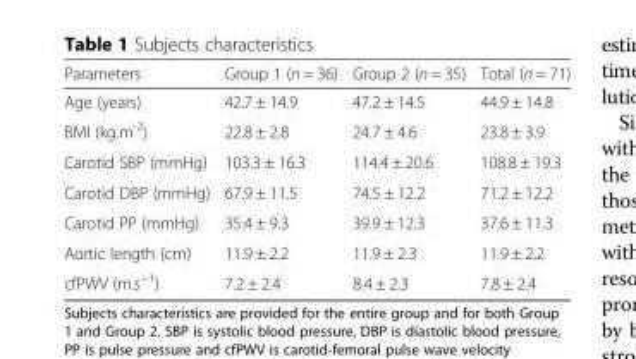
<table><thead><tr><td>Parameters</td><td>Group 1 (n = 36)</td><td>Group 2 (n = 35)</td><td>Total (n = 71)</td></tr></thead><tbody><tr><td>Age (years)</td><td>42.7 ± 14.9</td><td>47.2 ± 14.5</td><td>44.9 ± 14.8</td></tr><tr><td>BMI (kg.m<sup>-2</sup>)</td><td>22.8 ± 2.8</td><td>24.7 ± 4.6</td><td>23.8 ± 3.9</td></tr><tr><td>Carotid SBP (mmHg)</td><td>103.3 ± 16.3</td><td>114.4 ± 20.6</td><td>108.8 ± 19.3</td></tr><tr><td>Carotid DBP (mmHg)</td><td>67.9 ± 11.5</td><td>74.5 ± 12.2</td><td>71.2 ± 12.2</td></tr><tr><td>Carotid PP (mmHg)</td><td>35.4 ± 9.3</td><td>39.9 ± 12.3</td><td>37.6 ± 11.3</td></tr><tr><td>Aortic length (cm)</td><td>11.9 ± 2.2</td><td>11.9 ± 2.3</td><td>11.9 ± 2.2</td></tr><tr><td>cfPWV (m.s<sup>−1</sup>)</td><td>7.2 ± 2.4</td><td>8.4 ± 2.3</td><td>7.8 ± 2.4</td></tr></tbody></table>